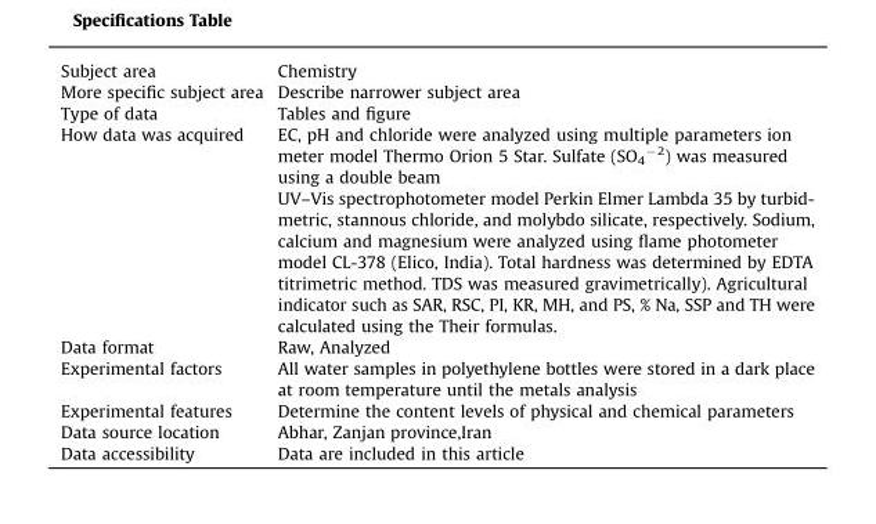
<table><tbody><tr><td>Subject area</td><td>Chemistry</td></tr><tr><td>More specific subject area</td><td>Describe narrower subject area</td></tr><tr><td>Type of data</td><td>Tables and figure</td></tr><tr><td>How data was acquired</td><td>EC, pH and chloride were analyzed using multiple parameters ion meter model Thermo Orion 5 Star. Sulfate (SO<sub>4</sub> <sup>−2</sup>) was measured using a double beam UV–Vis spectrophotometer model Perkin Elmer Lambda 35 by turbid- metric, stannous chloride, and molybdo silicate, respectively. Sodium, calcium and magnesium were analyzed using flame photometer model CL-378 (Elico, India). Total hardness was determined by EDTA titrimetric method. TDS was measured gravimetrically). Agricultural indicator such as SAR, RSC, PI, KR, MH, and PS, % Na, SSP and TH were calculated using the Their formulas.</td></tr><tr><td>Data format</td><td>Raw, Analyzed</td></tr><tr><td>Experimental factors</td><td>All water samples in polyethylene bottles were stored in a dark place at room temperature until the metals analysis</td></tr><tr><td>Experimental features</td><td>Determine the content levels of physical and chemical parameters</td></tr><tr><td>Data source location</td><td>Abhar, Zanjan province,Iran</td></tr><tr><td>Data accessibility</td><td>Data are included in this article</td></tr></tbody></table>